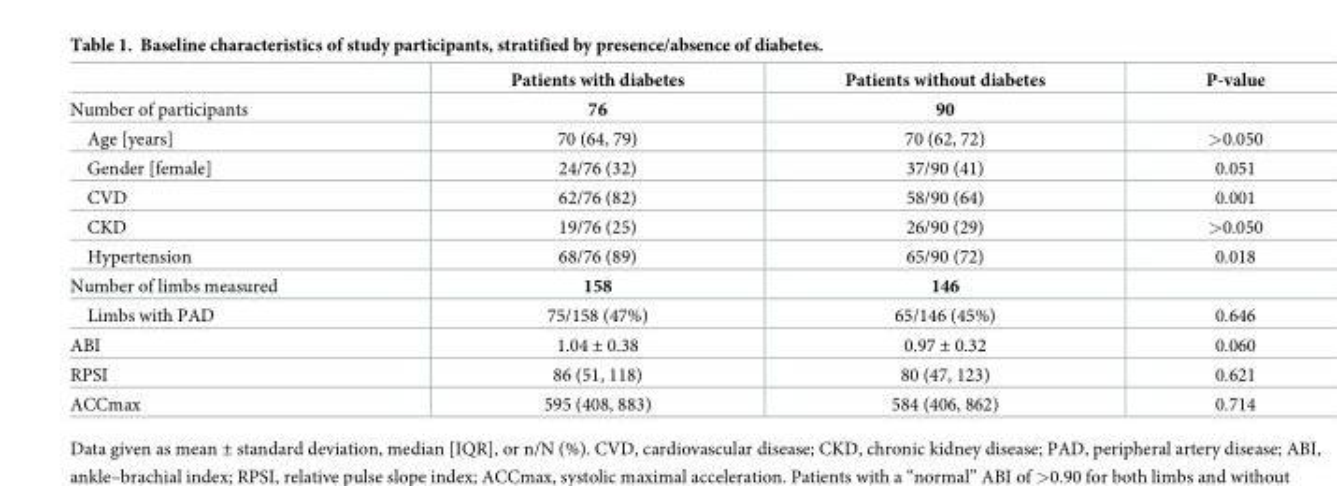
<table><thead><tr><td></td><td>Patients with diabetes</td><td>Patients without diabetes</td><td>P-value</td></tr></thead><tbody><tr><td>Number of participants</td><td>76</td><td>90</td><td></td></tr><tr><td>Age [years]</td><td>70 (64, 79)</td><td>70 (62, 72)</td><td>&gt;0.050</td></tr><tr><td>Gender [female]</td><td>24/76 (32)</td><td>37/90 (41)</td><td>0.051</td></tr><tr><td>CVD</td><td>62/76 (82)</td><td>58/90 (64)</td><td>0.001</td></tr><tr><td>CKD</td><td>19/76 (25)</td><td>26/90 (29)</td><td>&gt;0.050</td></tr><tr><td>Hypertension</td><td>68/76 (89)</td><td>65/90 (72)</td><td>0.018</td></tr><tr><td>Number of limbs measured</td><td>158</td><td>146</td><td></td></tr><tr><td>Limbs with PAD</td><td>75/158 (47%)</td><td>65/146 (45%)</td><td>0.646</td></tr><tr><td>ABI</td><td>1.04 ± 0.38</td><td>0.97 ± 0.32</td><td>0.060</td></tr><tr><td>RPSI</td><td>86 (51, 118)</td><td>80 (47, 123)</td><td>0.621</td></tr><tr><td>ACCmax</td><td>595 (408, 883)</td><td>584 (406, 862)</td><td>0.714</td></tr></tbody></table>